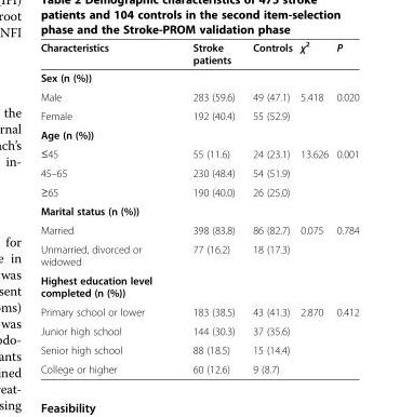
<table><thead><tr><td>Characteristics</td><td>Stroke patients</td><td>Controls</td><td>χ<sup>2</sup></td><td>P</td></tr></thead><tbody><tr><td colspan="5">Sex (n (%))</td></tr><tr><td>Male</td><td>283 (59.6)</td><td>49 (47.1)</td><td>5.418</td><td>0.020</td></tr><tr><td>Female</td><td>192 (40.4)</td><td>55 (52.9)</td><td></td><td></td></tr><tr><td colspan="5">Age (n (%))</td></tr><tr><td>≤45</td><td>55 (11.6)</td><td>24 (23.1)</td><td>13.626</td><td>0.001</td></tr><tr><td>45–65</td><td>230 (48.4)</td><td>54 (51.9)</td><td></td><td></td></tr><tr><td>≥65</td><td>190 (40.0)</td><td>26 (25.0)</td><td></td><td></td></tr><tr><td colspan="5">Marital status (n (%))</td></tr><tr><td>Married</td><td>398 (83.8)</td><td>86 (82.7)</td><td>0.075</td><td>0.784</td></tr><tr><td>Unmarried, divorced or widowed</td><td>77 (16.2)</td><td>18 (17.3)</td><td></td><td></td></tr><tr><td colspan="5">Highest education level completed (n (%))</td></tr><tr><td>Primary school or lower</td><td>183 (38.5)</td><td>43 (41.3)</td><td>2.870</td><td>0.412</td></tr><tr><td>Junior high school</td><td>144 (30.3)</td><td>37 (35.6)</td><td></td><td></td></tr><tr><td>Senior high school</td><td>88 (18.5)</td><td>15 (14.4)</td><td></td><td></td></tr><tr><td>College or higher</td><td>60 (12.6)</td><td>9 (8.7)</td><td></td><td></td></tr></tbody></table>